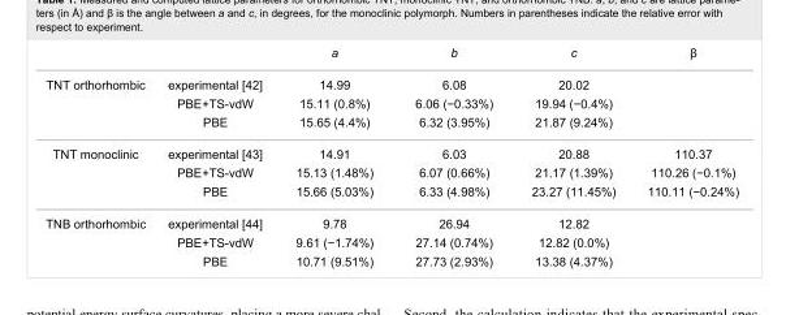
<table><thead><tr><td></td><td></td><td>a</td><td>b</td><td>c</td><td>β</td></tr></thead><tbody><tr><td rowspan="3">TNT orthorhombic</td><td>experimental [42]</td><td>14.99</td><td>6.08</td><td>20.02</td><td></td></tr><tr><td>PBE+TS-vdW</td><td>15.11 (0.8%)</td><td>6.06 (−0.33%)</td><td>19.94 (−0.4%)</td><td></td></tr><tr><td>PBE</td><td>15.65 (4.4%)</td><td>6.32 (3.95%)</td><td>21.87 (9.24%)</td><td></td></tr><tr><td rowspan="3">TNT monoclinic</td><td>experimental [43]</td><td>14.91</td><td>6.03</td><td>20.88</td><td>110.37</td></tr><tr><td>PBE+TS-vdW</td><td>15.13 (1.48%)</td><td>6.07 (0.66%)</td><td>21.17 (1.39%)</td><td>110.26 (−0.1%)</td></tr><tr><td>PBE</td><td>15.66 (5.03%)</td><td>6.33 (4.98%)</td><td>23.27 (11.45%)</td><td>110.11 (−0.24%)</td></tr><tr><td rowspan="3">TNB orthorhombic</td><td>experimental [44]</td><td>9.78</td><td>26.94</td><td>12.82</td><td></td></tr><tr><td>PBE+TS-vdW</td><td>9.61 (−1.74%)</td><td>27.14 (0.74%)</td><td>12.82 (0.0%)</td><td></td></tr><tr><td>PBE</td><td>10.71 (9.51%)</td><td>27.73 (2.93%)</td><td>13.38 (4.37%)</td><td></td></tr></tbody></table>